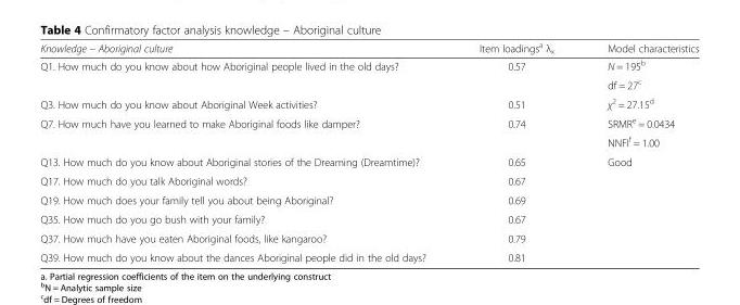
<table><thead><tr><td>Knowledge – Aboriginal culture</td><td>Item loadings<sup>a</sup> λ<sub>x</sub></td><td>Model characteristics</td></tr></thead><tbody><tr><td rowspan="2">Q1. How much do you know about how Aboriginal people lived in the old days?</td><td rowspan="2">0.57</td><td>N = 195<sup>b</sup></td></tr><tr><td>df = 27<sup>c</sup></td></tr><tr><td>Q3. How much do you know about Aboriginal Week activities?</td><td>0.51</td><td>χ<sup>2</sup> = 27.15<sup>d</sup></td></tr><tr><td rowspan="2">Q7. How much have you learned to make Aboriginal foods like damper?</td><td rowspan="2">0.74</td><td>SRMR<sup>e</sup> = 0.0434</td></tr><tr><td>NNFI<sup>f</sup> = 1.00</td></tr><tr><td>Q13. How much do you know about Aboriginal stories of the Dreaming (Dreamtime)?</td><td>0.65</td><td rowspan="6">Good</td></tr><tr><td>Q17. How much do you talk Aboriginal words?</td><td>0.67</td></tr><tr><td>Q19. How much does your family tell you about being Aboriginal?</td><td>0.69</td></tr><tr><td>Q35. How much do you go bush with your family?</td><td>0.67</td></tr><tr><td>Q37. How much have you eaten Aboriginal foods, like kangaroo?</td><td>0.79</td></tr><tr><td>Q39. How much do you know about the dances Aboriginal people did in the old days?</td><td>0.81</td></tr></tbody></table>